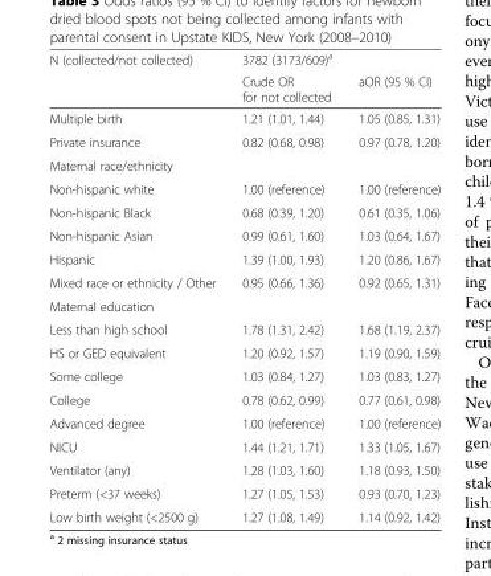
<table><thead><tr><td rowspan="2">N (collected/not collected)</td><td rowspan="2">3782 (3173/609)<sup>a</sup> Crude OR for not collected</td><td rowspan="2">aOR (95 % CI)</td></tr><tr></tr></thead><tbody><tr><td>Multiple birth</td><td>1.21 (1.01, 1.44)</td><td>1.05 (0.85, 1.31)</td></tr><tr><td>Private insurance</td><td>0.82 (0.68, 0.98)</td><td>0.97 (0.78, 1.20)</td></tr><tr><td colspan="3">Maternal race/ethnicity</td></tr><tr><td>Non-hispanic white</td><td>1.00 (reference)</td><td>1.00 (reference)</td></tr><tr><td>Non-hispanic Black</td><td>0.68 (0.39, 1.20)</td><td>0.61 (0.35, 1.06)</td></tr><tr><td>Non-hispanic Asian</td><td>0.99 (0.61, 1.60)</td><td>1.03 (0.64, 1.67)</td></tr><tr><td>Hispanic</td><td>1.39 (1.00, 1.93)</td><td>1.20 (0.86, 1.67)</td></tr><tr><td>Mixed race or ethnicity / Other</td><td>0.95 (0.66, 1.36)</td><td>0.92 (0.65, 1.31)</td></tr><tr><td colspan="3">Maternal education</td></tr><tr><td>Less than high school</td><td>1.78 (1.31, 2.42)</td><td>1.68 (1.19, 2.37)</td></tr><tr><td>HS or GED equivalent</td><td>1.20 (0.92, 1.57)</td><td>1.19 (0.90, 1.59)</td></tr><tr><td>Some college</td><td>1.03 (0.84, 1.27)</td><td>1.03 (0.83, 1.27)</td></tr><tr><td>College</td><td>0.78 (0.62, 0.99)</td><td>0.77 (0.61, 0.98)</td></tr><tr><td>Advanced degree</td><td>1.00 (reference)</td><td>1.00 (reference)</td></tr><tr><td>NICU</td><td>1.44 (1.21, 1.71)</td><td>1.33 (1.05, 1.67)</td></tr><tr><td>Ventilator (any)</td><td>1.28 (1.03, 1.60)</td><td>1.18 (0.93, 1.50)</td></tr><tr><td>Preterm (&lt;37 weeks)</td><td>1.27 (1.05, 1.53)</td><td>0.93 (0.70, 1.23)</td></tr><tr><td>Low birth weight (&lt;2500 g)</td><td>1.27 (1.08, 1.49)</td><td>1.14 (0.92, 1.42)</td></tr></tbody></table>